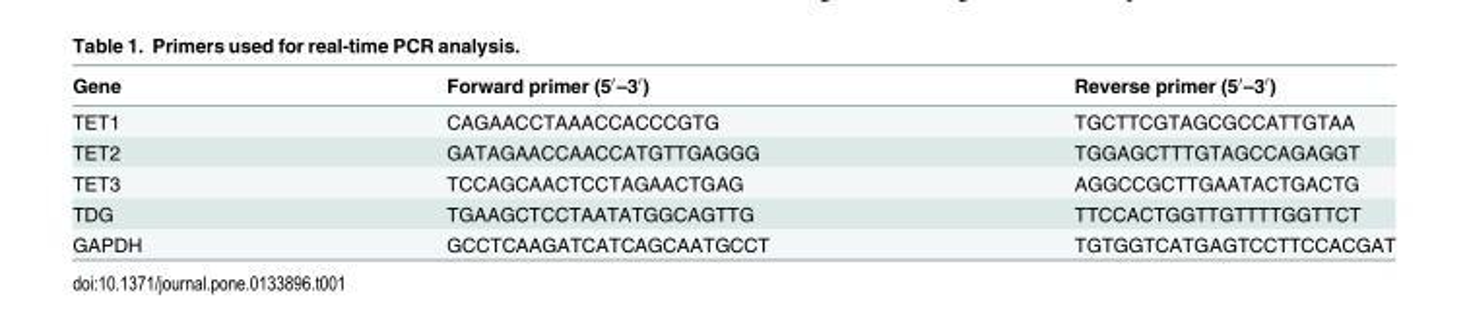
<table><thead><tr><td>Gene</td><td>Forward primer (5′–3′)</td><td>Reverse primer (5′–3′)</td></tr></thead><tbody><tr><td>TET1</td><td>CAGAACCTAAACCACCCGTG</td><td>TGCTTCGTAGCGCCATTGTAA</td></tr><tr><td>TET2</td><td>GATAGAACCAACCATGTTGAGGG</td><td>TGGAGCTTTGTAGCCAGAGGT</td></tr><tr><td>TET3</td><td>TCCAGCAACTCCTAGAACTGAG</td><td>AGGCCGCTTGAATACTGACTG</td></tr><tr><td>TDG</td><td>TGAAGCTCCTAATATGGCAGTTG</td><td>TTCCACTGGTTGTTTTGGTTCT</td></tr><tr><td>GAPDH</td><td>GCCTCAAGATCATCAGCAATGCCT</td><td>TGTGGTCATGAGTCCTTCCACGAT</td></tr></tbody></table>